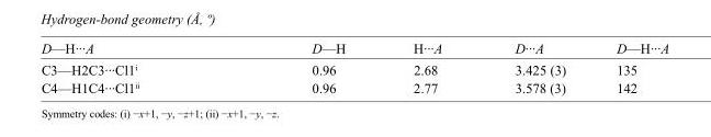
<table><tbody><tr><td>D—H···A</td><td>D—H</td><td>H···A</td><td>D···A</td><td>D—H···A</td></tr><tr><td>C3—H2C3···Cl1<sup>i</sup></td><td>0.96</td><td>2.68</td><td>3.425 (3)</td><td>135</td></tr><tr><td>C4—H1C4···Cl1<sup>ii</sup></td><td>0.96</td><td>2.77</td><td>3.578 (3)</td><td>142</td></tr></tbody></table>